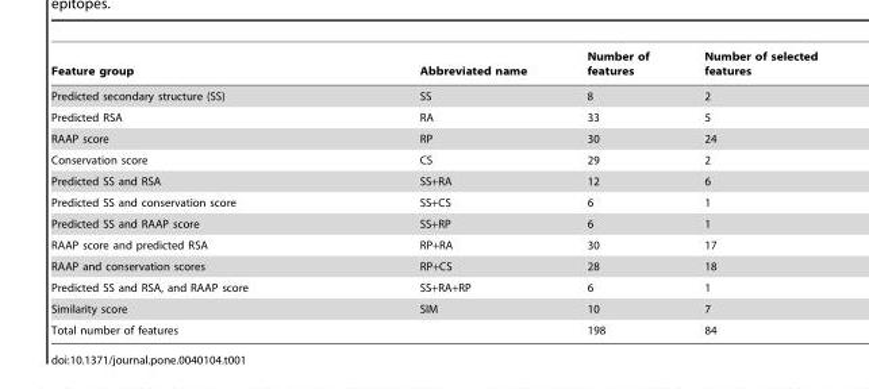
<table><thead><tr><td>Feature group</td><td>Abbreviated name</td><td>Number of features</td><td>Number of selected features</td></tr></thead><tbody><tr><td>Predicted secondary structure (SS)</td><td>SS</td><td>8</td><td>2</td></tr><tr><td>Predicted RSA</td><td>RA</td><td>33</td><td>5</td></tr><tr><td>RAAP score</td><td>RP</td><td>30</td><td>24</td></tr><tr><td>Conservation score</td><td>CS</td><td>29</td><td>2</td></tr><tr><td>Predicted SS and RSA</td><td>SS+RA</td><td>12</td><td>6</td></tr><tr><td>Predicted SS and conservation score</td><td>SS+CS</td><td>6</td><td>1</td></tr><tr><td>Predicted SS and RAAP score</td><td>SS+RP</td><td>6</td><td>1</td></tr><tr><td>RAAP score and predicted RSA</td><td>RP+RA</td><td>30</td><td>17</td></tr><tr><td>RAAP and conservation scores</td><td>RP+CS</td><td>28</td><td>18</td></tr><tr><td>Predicted SS and RSA, and RAAP score</td><td>SS+RA+RP</td><td>6</td><td>1</td></tr><tr><td>Similarity score</td><td>SIM</td><td>10</td><td>7</td></tr><tr><td>Total number of features</td><td></td><td>198</td><td>84</td></tr></tbody></table>